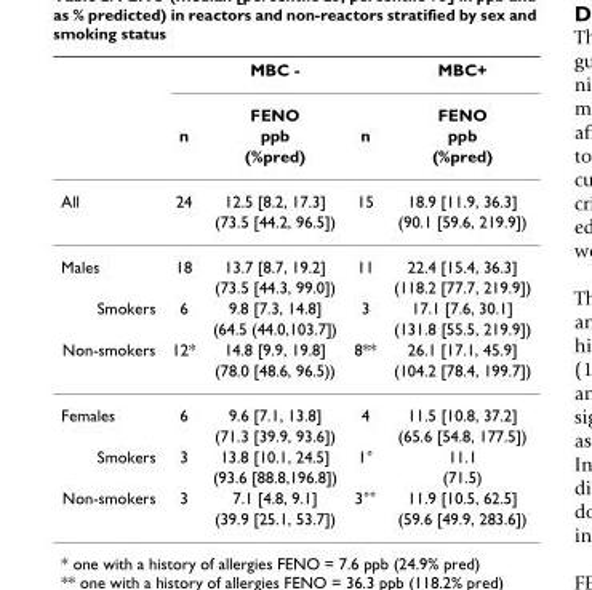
<table><thead><tr><td rowspan="4"></td><td rowspan="4">n</td><td rowspan="4">MBC - FENO ppb (%pred)</td><td rowspan="4">n</td><td rowspan="4">MBC+ FENO ppb (%pred)</td></tr><tr></tr><tr></tr><tr></tr></thead><tbody><tr><td rowspan="2">All</td><td>24</td><td>12.5 [8.2, 17.3]</td><td>15</td><td>18.9 [11.9, 36.3]</td></tr><tr><td></td><td>(73.5 [44.2, 96.5])</td><td></td><td>(90.1 [59.6, 219.9])</td></tr><tr><td rowspan="2">Males</td><td>18</td><td>13.7 [8.7, 19.2]</td><td>11</td><td>22.4 [15.4, 36.3]</td></tr><tr><td></td><td>(73.5 [44.3, 99.0])</td><td></td><td>(118.2 [77.7, 219.9])</td></tr><tr><td rowspan="2">Smokers</td><td>6</td><td>9.8 [7.3, 14.8]</td><td>3</td><td>17.1 [7.6, 30.1]</td></tr><tr><td></td><td>(64.5 (44.0,103.7])</td><td></td><td>(131.8 [55.5, 219.9])</td></tr><tr><td rowspan="2">Non-smokers</td><td>12*</td><td>14.8 [9.9, 19.8]</td><td>8**</td><td>26.1 [17.1, 45.9]</td></tr><tr><td></td><td>(78.0 [48.6, 96.5))</td><td></td><td>(104.2 [78.4, 199.7])</td></tr><tr><td rowspan="2">Females</td><td>6</td><td>9.6 [7.1, 13.8]</td><td>4</td><td>11.5 [10.8, 37.2]</td></tr><tr><td></td><td>(71.3 [39.9, 93.6])</td><td></td><td>(65.6 [54.8, 177.5])</td></tr><tr><td rowspan="2">Smokers</td><td>3</td><td>13.8 [10.1, 24.5]</td><td>1°</td><td>11.1</td></tr><tr><td></td><td>(93.6 [88.8,196.8])</td><td></td><td>(71.5)</td></tr><tr><td rowspan="2">Non-smokers</td><td>3</td><td>7.1 [4.8, 9.1]</td><td>3°°</td><td>11.9 [10.5, 62.5]</td></tr><tr><td></td><td>(39.9 [25.1, 53.7])</td><td></td><td>(59.6 [49.9, 283.6])</td></tr></tbody></table>